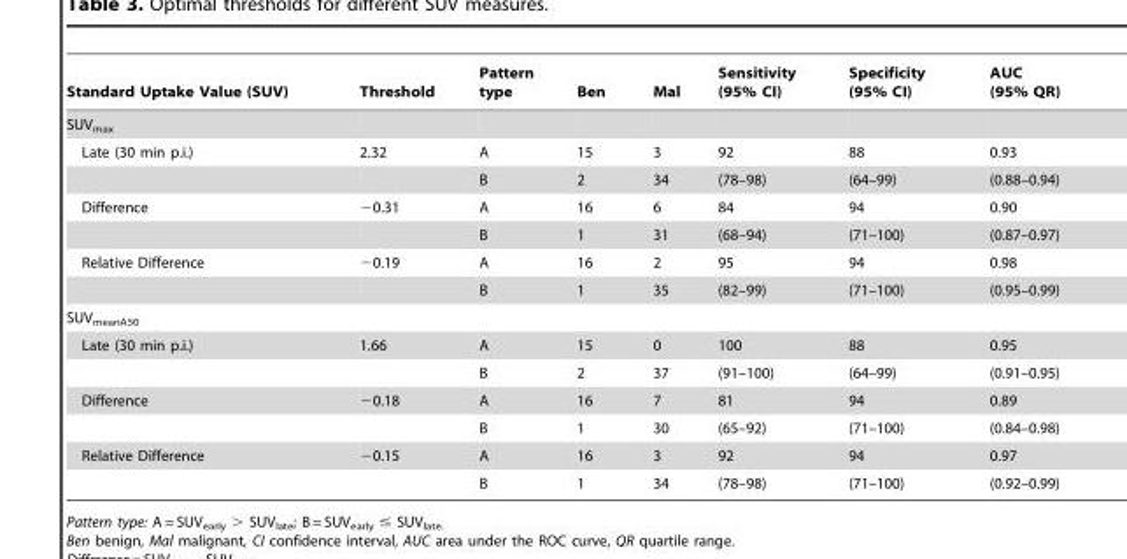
<table><thead><tr><td>Standard Uptake Value (SUV)</td><td>Threshold</td><td>Pattern type</td><td>Ben</td><td>Mal</td><td>Sensitivity (95% CI)</td><td>Specificity (95% CI)</td><td>AUC (95% QR)</td></tr></thead><tbody><tr><td colspan="8">SUV<sub>max</sub></td></tr><tr><td rowspan="2">Late (30 min p.i.)</td><td>2.32</td><td>A</td><td>15</td><td>3</td><td>92</td><td>88</td><td>0.93</td></tr><tr><td></td><td>B</td><td>2</td><td>34</td><td>(78–98)</td><td>(64–99)</td><td>(0.88–0.94)</td></tr><tr><td rowspan="2">Difference</td><td>−0.31</td><td>A</td><td>16</td><td>6</td><td>84</td><td>94</td><td>0.90</td></tr><tr><td></td><td>B</td><td>1</td><td>31</td><td>(68–94)</td><td>(71–100)</td><td>(0.87–0.97)</td></tr><tr><td rowspan="2">Relative Difference</td><td>−0.19</td><td>A</td><td>16</td><td>2</td><td>95</td><td>94</td><td>0.98</td></tr><tr><td></td><td>B</td><td>1</td><td>35</td><td>(82–99)</td><td>(71–100)</td><td>(0.95–0.99)</td></tr><tr><td colspan="8">SUV<sub>meanA50</sub></td></tr><tr><td rowspan="2">Late (30 min p.i.)</td><td>1.66</td><td>A</td><td>15</td><td>0</td><td>100</td><td>88</td><td>0.95</td></tr><tr><td></td><td>B</td><td>2</td><td>37</td><td>(91–100)</td><td>(64–99)</td><td>(0.91–0.95)</td></tr><tr><td rowspan="2">Difference</td><td>−0.18</td><td>A</td><td>16</td><td>7</td><td>81</td><td>94</td><td>0.89</td></tr><tr><td></td><td>B</td><td>1</td><td>30</td><td>(65–92)</td><td>(71–100)</td><td>(0.84–0.98)</td></tr><tr><td rowspan="2">Relative Difference</td><td>−0.15</td><td>A</td><td>16</td><td>3</td><td>92</td><td>94</td><td>0.97</td></tr><tr><td></td><td>B</td><td>1</td><td>34</td><td>(78–98)</td><td>(71–100)</td><td>(0.92–0.99)</td></tr></tbody></table>